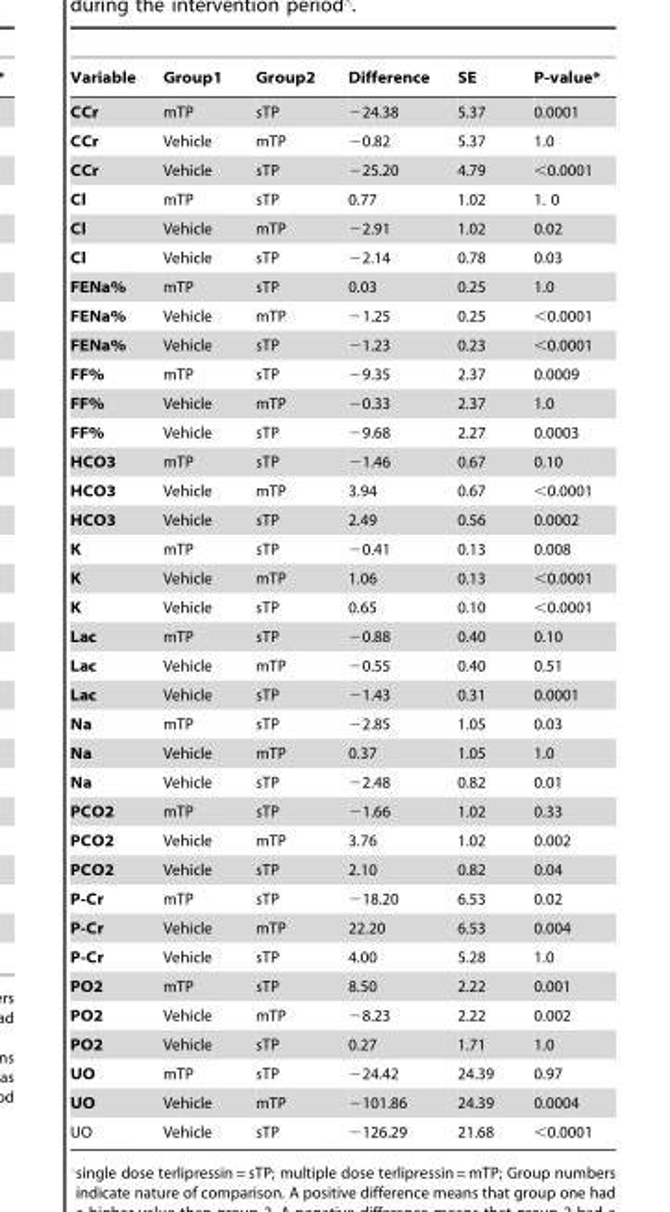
<table><thead><tr><td>Variable</td><td>Group1</td><td>Group2</td><td>Difference</td><td>SE</td><td>P-value*</td></tr></thead><tbody><tr><td>CCr</td><td>mTP</td><td>sTP</td><td>−24.38</td><td>5.37</td><td>0.0001</td></tr><tr><td>CCr</td><td>Vehicle</td><td>mTP</td><td>−0.82</td><td>5.37</td><td>1.0</td></tr><tr><td>CCr</td><td>Vehicle</td><td>sTP</td><td>−25.20</td><td>4.79</td><td>&lt;0.0001</td></tr><tr><td>Cl</td><td>mTP</td><td>sTP</td><td>0.77</td><td>1.02</td><td>1. 0</td></tr><tr><td>Cl</td><td>Vehicle</td><td>mTP</td><td>−2.91</td><td>1.02</td><td>0.02</td></tr><tr><td>Cl</td><td>Vehicle</td><td>sTP</td><td>−2.14</td><td>0.78</td><td>0.03</td></tr><tr><td>FENa%</td><td>mTP</td><td>sTP</td><td>0.03</td><td>0.25</td><td>1.0</td></tr><tr><td>FENa%</td><td>Vehicle</td><td>mTP</td><td>−1.25</td><td>0.25</td><td>&lt;0.0001</td></tr><tr><td>FENa%</td><td>Vehicle</td><td>sTP</td><td>−1.23</td><td>0.23</td><td>&lt;0.0001</td></tr><tr><td>FF%</td><td>mTP</td><td>sTP</td><td>−9.35</td><td>2.37</td><td>0.0009</td></tr><tr><td>FF%</td><td>Vehicle</td><td>mTP</td><td>−0.33</td><td>2.37</td><td>1.0</td></tr><tr><td>FF%</td><td>Vehicle</td><td>sTP</td><td>−9.68</td><td>2.27</td><td>0.0003</td></tr><tr><td>HCO3</td><td>mTP</td><td>sTP</td><td>−1.46</td><td>0.67</td><td>0.10</td></tr><tr><td>HCO3</td><td>Vehicle</td><td>mTP</td><td>3.94</td><td>0.67</td><td>&lt;0.0001</td></tr><tr><td>HCO3</td><td>Vehicle</td><td>sTP</td><td>2.49</td><td>0.56</td><td>0.0002</td></tr><tr><td>K</td><td>mTP</td><td>sTP</td><td>−0.41</td><td>0.13</td><td>0.008</td></tr><tr><td>K</td><td>Vehicle</td><td>mTP</td><td>1.06</td><td>0.13</td><td>&lt;0.0001</td></tr><tr><td>K</td><td>Vehicle</td><td>sTP</td><td>0.65</td><td>0.10</td><td>&lt;0.0001</td></tr><tr><td>Lac</td><td>mTP</td><td>sTP</td><td>−0.88</td><td>0.40</td><td>0.10</td></tr><tr><td>Lac</td><td>Vehicle</td><td>mTP</td><td>−0.55</td><td>0.40</td><td>0.51</td></tr><tr><td>Lac</td><td>Vehicle</td><td>sTP</td><td>−1.43</td><td>0.31</td><td>0.0001</td></tr><tr><td>Na</td><td>mTP</td><td>sTP</td><td>−2.85</td><td>1.05</td><td>0.03</td></tr><tr><td>Na</td><td>Vehicle</td><td>mTP</td><td>0.37</td><td>1.05</td><td>1.0</td></tr><tr><td>Na</td><td>Vehicle</td><td>sTP</td><td>−2.48</td><td>0.82</td><td>0.01</td></tr><tr><td>PCO2</td><td>mTP</td><td>sTP</td><td>−1.66</td><td>1.02</td><td>0.33</td></tr><tr><td>PCO2</td><td>Vehicle</td><td>mTP</td><td>3.76</td><td>1.02</td><td>0.002</td></tr><tr><td>PCO2</td><td>Vehicle</td><td>sTP</td><td>2.10</td><td>0.82</td><td>0.04</td></tr><tr><td>P-Cr</td><td>mTP</td><td>sTP</td><td>−18.20</td><td>6.53</td><td>0.02</td></tr><tr><td>P-Cr</td><td>Vehicle</td><td>mTP</td><td>22.20</td><td>6.53</td><td>0.004</td></tr><tr><td>P-Cr</td><td>Vehicle</td><td>sTP</td><td>4.00</td><td>5.28</td><td>1.0</td></tr><tr><td>PO2</td><td>mTP</td><td>sTP</td><td>8.50</td><td>2.22</td><td>0.001</td></tr><tr><td>PO2</td><td>Vehicle</td><td>mTP</td><td>−8.23</td><td>2.22</td><td>0.002</td></tr><tr><td>PO2</td><td>Vehicle</td><td>sTP</td><td>0.27</td><td>1.71</td><td>1.0</td></tr><tr><td>UO</td><td>mTP</td><td>sTP</td><td>−24.42</td><td>24.39</td><td>0.97</td></tr><tr><td>UO</td><td>Vehicle</td><td>mTP</td><td>−101.86</td><td>24.39</td><td>0.0004</td></tr><tr><td>UO</td><td>Vehicle</td><td>sTP</td><td>−126.29</td><td>21.68</td><td>&lt;0.0001</td></tr></tbody></table>